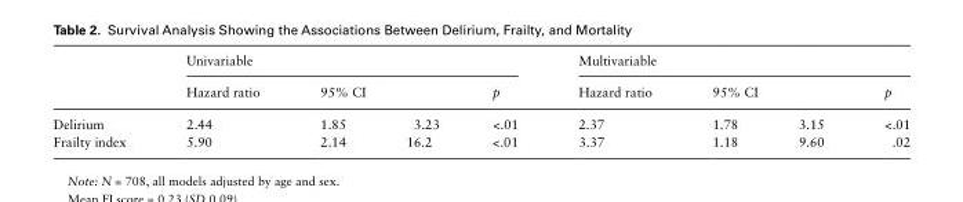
<table><thead><tr><td rowspan="3">Delirium</td><td colspan="4">Univariable</td><td colspan="4">Multivariable</td></tr><tr><td rowspan="2">Hazard ratio 2.44</td><td colspan="2">95% CI</td><td rowspan="2">p &lt;.01</td><td rowspan="2">Hazard ratio 2.37</td><td colspan="2">95% CI</td><td rowspan="2">p &lt;.01</td></tr><tr><td>1.85</td><td>3.23</td><td>1.78</td><td>3.15</td></tr></thead><tbody><tr><td>Frailty index</td><td>5.90</td><td>2.14</td><td>16.2</td><td>&lt;.01</td><td>3.37</td><td>1.18</td><td>9.60</td><td>.02</td></tr></tbody></table>